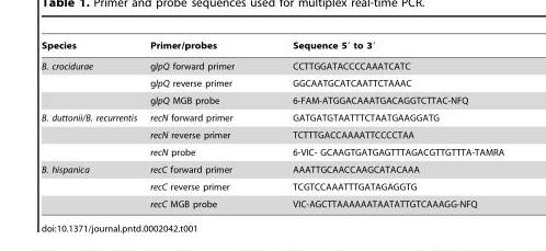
<table><thead><tr><td>Species</td><td>Primer/probes</td><td>Sequence 5′ to 3′</td></tr></thead><tbody><tr><td rowspan="3">B. crocidurae</td><td>glpQ forward primer</td><td>CCTTGGATACCCCAAATCATC</td></tr><tr><td>glpQ reverse primer</td><td>GGCAATGCATCAATTCTAAAC</td></tr><tr><td>glpQ MGB probe</td><td>6-FAM-ATGGACAAATGACAGGTCTTAC-NFQ</td></tr><tr><td rowspan="3">B. duttonii/B. recurrentis</td><td>recN forward primer</td><td>GATGATGTAATTTCTAATGAAGGATG</td></tr><tr><td>recN reverse primer</td><td>TCTTTGACCAAAATTCCCCTAA</td></tr><tr><td>recN probe</td><td>6-VIC- GCAAGTGATGAGTTTAGACGTTGTTTA-TAMRA</td></tr><tr><td rowspan="3">B. hispanica</td><td>recC forward primer</td><td>AAATTGCAACCAAGCATACAAA</td></tr><tr><td>recC reverse primer</td><td>TCGTCCAAATTTGATAGAGGTG</td></tr><tr><td>recC MGB probe</td><td>VIC-AGCTTAAAAAATAATATTGTCAAAGG-NFQ</td></tr></tbody></table>